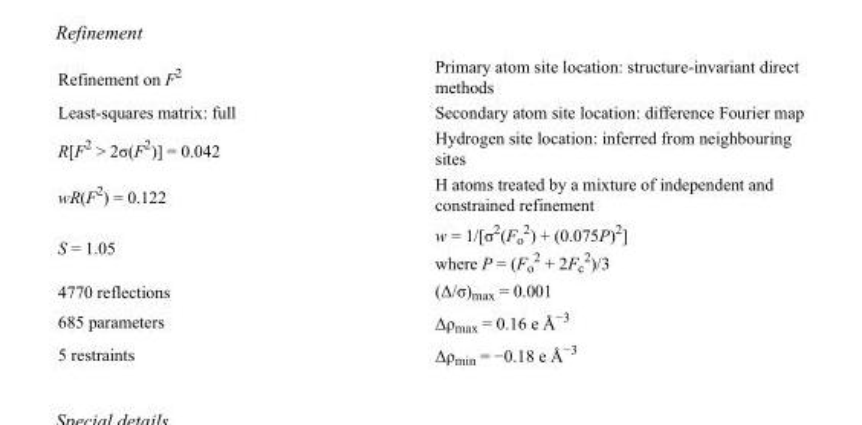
<table><tbody><tr><td>Refinement on F<sup>2</sup></td><td>Primary atom site location: structure-invariant direct methods</td></tr><tr><td>Least-squares matrix: full</td><td>Secondary atom site location: difference Fourier map</td></tr><tr><td>R[F<sup>2</sup> &gt; 2σ(F<sup>2</sup>)] = 0.042</td><td>Hydrogen site location: inferred from neighbouring sites</td></tr><tr><td>wR(F<sup>2</sup>) = 0.122</td><td>H atoms treated by a mixture of independent and constrained refinement</td></tr><tr><td>S = 1.05</td><td>w = 1/[σ<sup>2</sup>(F<sub>o</sub> <sup>2</sup>) + (0.075P)<sup>2</sup>] where P = (F<sub>o</sub> <sup>2</sup> + 2F<sub>c</sub> <sup>2</sup>)/3</td></tr><tr><td>4770 reflections</td><td>(Δ/σ)<sub>max</sub> = 0.001</td></tr><tr><td>685 parameters</td><td>Δρ<sub>max</sub> = 0.16 e Å<sup>−3</sup></td></tr><tr><td>5 restraints</td><td>Δρ<sub>min</sub> = −0.18 e Å<sup>−3</sup></td></tr></tbody></table>